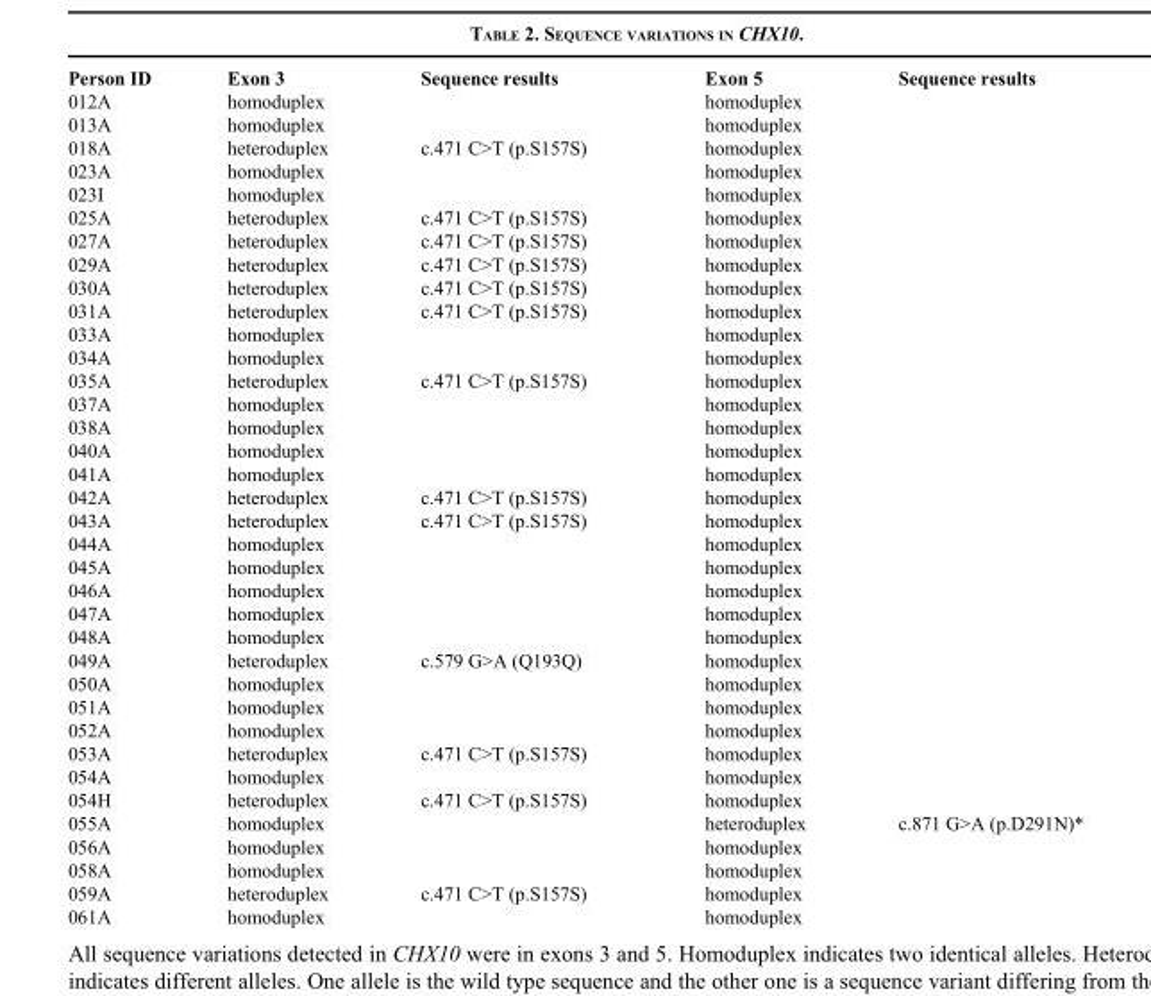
<table><tbody><tr><td>Person ID</td><td>Exon 3</td><td>Sequence results</td><td>Exon 5</td><td>Sequence results</td></tr><tr><td>012A</td><td>homoduplex</td><td></td><td>homoduplex</td><td></td></tr><tr><td>013A</td><td>homoduplex</td><td></td><td>homoduplex</td><td></td></tr><tr><td>018A</td><td>heteroduplex</td><td>c.471 C&gt;T (p.S157S)</td><td>homoduplex</td><td></td></tr><tr><td>023A</td><td>homoduplex</td><td></td><td>homoduplex</td><td></td></tr><tr><td>023I</td><td>homoduplex</td><td></td><td>homoduplex</td><td></td></tr><tr><td>025A</td><td>heteroduplex</td><td>c.471 C&gt;T (p.S157S)</td><td>homoduplex</td><td></td></tr><tr><td>027A</td><td>heteroduplex</td><td>c.471 C&gt;T (p.S157S)</td><td>homoduplex</td><td></td></tr><tr><td>029A</td><td>heteroduplex</td><td>c.471 C&gt;T (p.S157S)</td><td>homoduplex</td><td></td></tr><tr><td>030A</td><td>heteroduplex</td><td>c.471 C&gt;T (p.S157S)</td><td>homoduplex</td><td></td></tr><tr><td>031A</td><td>heteroduplex</td><td>c.471 C&gt;T (p.S157S)</td><td>homoduplex</td><td></td></tr><tr><td>033A</td><td>homoduplex</td><td></td><td>homoduplex</td><td></td></tr><tr><td>034A</td><td>homoduplex</td><td></td><td>homoduplex</td><td></td></tr><tr><td>035A</td><td>heteroduplex</td><td>c.471 C&gt;T (p.S157S)</td><td>homoduplex</td><td></td></tr><tr><td>037A</td><td>homoduplex</td><td></td><td>homoduplex</td><td></td></tr><tr><td>038A</td><td>homoduplex</td><td></td><td>homoduplex</td><td></td></tr><tr><td>040A</td><td>homoduplex</td><td></td><td>homoduplex</td><td></td></tr><tr><td>041A</td><td>homoduplex</td><td></td><td>homoduplex</td><td></td></tr><tr><td>042A</td><td>heteroduplex</td><td>c.471 C&gt;T (p.S157S)</td><td>homoduplex</td><td></td></tr><tr><td>043A</td><td>heteroduplex</td><td>c.471 C&gt;T (p.S157S)</td><td>homoduplex</td><td></td></tr><tr><td>044A</td><td>homoduplex</td><td></td><td>homoduplex</td><td></td></tr><tr><td>045A</td><td>homoduplex</td><td></td><td>homoduplex</td><td></td></tr><tr><td>046A</td><td>homoduplex</td><td></td><td>homoduplex</td><td></td></tr><tr><td>047A</td><td>homoduplex</td><td></td><td>homoduplex</td><td></td></tr><tr><td>048A</td><td>homoduplex</td><td></td><td>homoduplex</td><td></td></tr><tr><td>049A</td><td>heteroduplex</td><td>c.579 G&gt;A (Q193Q)</td><td>homoduplex</td><td></td></tr><tr><td>050A</td><td>homoduplex</td><td></td><td>homoduplex</td><td></td></tr><tr><td>051A</td><td>homoduplex</td><td></td><td>homoduplex</td><td></td></tr><tr><td>052A</td><td>homoduplex</td><td></td><td>homoduplex</td><td></td></tr><tr><td>053A</td><td>heteroduplex</td><td>c.471 C&gt;T (p.S157S)</td><td>homoduplex</td><td></td></tr><tr><td>054A</td><td>homoduplex</td><td></td><td>homoduplex</td><td></td></tr><tr><td>054H</td><td>heteroduplex</td><td>c.471 C&gt;T (p.S157S)</td><td>homoduplex</td><td></td></tr><tr><td>055A</td><td>homoduplex</td><td></td><td>heteroduplex</td><td>c.871 G&gt;A (p.D291N)*</td></tr><tr><td>056A</td><td>homoduplex</td><td></td><td>homoduplex</td><td></td></tr><tr><td>058A</td><td>homoduplex</td><td></td><td>homoduplex</td><td></td></tr><tr><td>059A</td><td>heteroduplex</td><td>c.471 C&gt;T (p.S157S)</td><td>homoduplex</td><td></td></tr><tr><td>061A</td><td>homoduplex</td><td></td><td>homoduplex</td><td></td></tr></tbody></table>